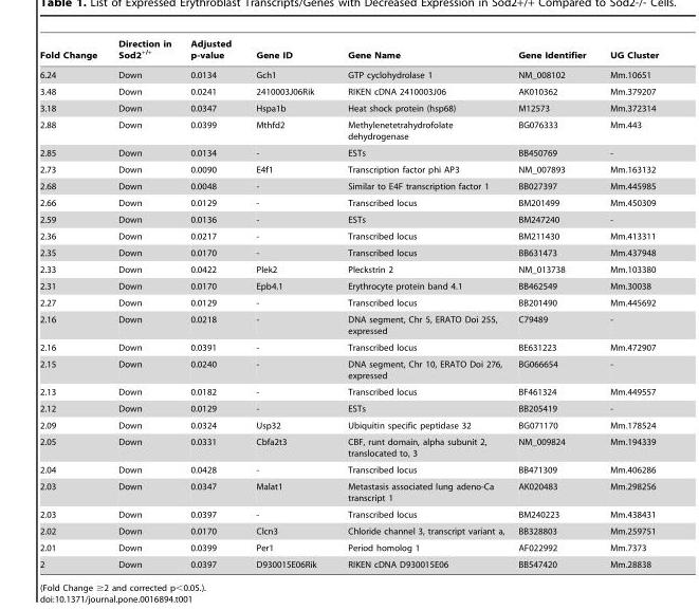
<table><thead><tr><td>Fold Change</td><td>Direction in Sod2<sup>+/+</sup></td><td>Adjusted p-value</td><td>Gene ID</td><td>Gene Name</td><td>Gene Identifier</td><td>UG Cluster</td></tr></thead><tbody><tr><td>6.24</td><td>Down</td><td>0.0134</td><td>Gch1</td><td>GTP cyclohydrolase 1</td><td>NM_008102</td><td>Mm.10651</td></tr><tr><td>3.48</td><td>Down</td><td>0.0241</td><td>2410003J06Rik</td><td>RIKEN cDNA 2410003J06</td><td>AK010362</td><td>Mm.379207</td></tr><tr><td>3.18</td><td>Down</td><td>0.0347</td><td>Hspa1b</td><td>Heat shock protein (hsp68)</td><td>M12573</td><td>Mm.372314</td></tr><tr><td>2.88</td><td>Down</td><td>0.0399</td><td>Mthfd2</td><td>Methylenetetrahydrofolate dehydrogenase</td><td>BG076333</td><td>Mm.443</td></tr><tr><td>2.85</td><td>Down</td><td>0.0134</td><td>-</td><td>ESTs</td><td>BB450769</td><td>-</td></tr><tr><td>2.73</td><td>Down</td><td>0.0090</td><td>E4f1</td><td>Transcription factor phi AP3</td><td>NM_007893</td><td>Mm.163132</td></tr><tr><td>2.68</td><td>Down</td><td>0.0048</td><td>-</td><td>Similar to E4F transcription factor 1</td><td>BB027397</td><td>Mm.445985</td></tr><tr><td>2.66</td><td>Down</td><td>0.0129</td><td>-</td><td>Transcribed locus</td><td>BM201499</td><td>Mm.450309</td></tr><tr><td>2.59</td><td>Down</td><td>0.0136</td><td>-</td><td>ESTs</td><td>BM247240</td><td>-</td></tr><tr><td>2.36</td><td>Down</td><td>0.0217</td><td>-</td><td>Transcribed locus</td><td>BM211430</td><td>Mm.413311</td></tr><tr><td>2.35</td><td>Down</td><td>0.0170</td><td>-</td><td>Transcribed locus</td><td>BB631473</td><td>Mm.437948</td></tr><tr><td>2.33</td><td>Down</td><td>0.0422</td><td>Plek2</td><td>Pleckstrin 2</td><td>NM_013738</td><td>Mm.103380</td></tr><tr><td>2.31</td><td>Down</td><td>0.0170</td><td>Epb4.1</td><td>Erythrocyte protein band 4.1</td><td>BB462549</td><td>Mm.30038</td></tr><tr><td>2.27</td><td>Down</td><td>0.0129</td><td>-</td><td>Transcribed locus</td><td>BB201490</td><td>Mm.445692</td></tr><tr><td>2.16</td><td>Down</td><td>0.0218</td><td>-</td><td>DNA segment, Chr 5, ERATO Doi 255, expressed</td><td>C79489</td><td>-</td></tr><tr><td>2.16</td><td>Down</td><td>0.0391</td><td>-</td><td>Transcribed locus</td><td>BE631223</td><td>Mm.472907</td></tr><tr><td>2.15</td><td>Down</td><td>0.0240</td><td>-</td><td>DNA segment, Chr 10, ERATO Doi 276, expressed</td><td>BG066654</td><td>-</td></tr><tr><td>2.13</td><td>Down</td><td>0.0182</td><td>-</td><td>Transcribed locus</td><td>BF461324</td><td>Mm.449557</td></tr><tr><td>2.12</td><td>Down</td><td>0.0129</td><td>-</td><td>ESTs</td><td>BB205419</td><td>-</td></tr><tr><td>2.09</td><td>Down</td><td>0.0324</td><td>Usp32</td><td>Ubiquitin specific peptidase 32</td><td>BG071170</td><td>Mm.178524</td></tr><tr><td>2.05</td><td>Down</td><td>0.0331</td><td>Cbfa2t3</td><td>CBF, runt domain, alpha subunit 2, translocated to, 3</td><td>NM_009824</td><td>Mm.194339</td></tr><tr><td>2.04</td><td>Down</td><td>0.0428</td><td>-</td><td>Transcribed locus</td><td>BB471309</td><td>Mm.406286</td></tr><tr><td>2.03</td><td>Down</td><td>0.0347</td><td>Malat1</td><td>Metastasis associated lung adeno-Ca transcript 1</td><td>AK020483</td><td>Mm.298256</td></tr><tr><td>2.03</td><td>Down</td><td>0.0397</td><td>-</td><td>Transcribed locus</td><td>BM240223</td><td>Mm.438431</td></tr><tr><td>2.02</td><td>Down</td><td>0.0170</td><td>Clcn3</td><td>Chloride channel 3, transcript variant a,</td><td>BB328803</td><td>Mm.259751</td></tr><tr><td>2.01</td><td>Down</td><td>0.0399</td><td>Per1</td><td>Period homolog 1</td><td>AF022992</td><td>Mm.7373</td></tr><tr><td>2</td><td>Down</td><td>0.0397</td><td>D930015E06Rik</td><td>RIKEN cDNA D930015E06</td><td>BB547420</td><td>Mm.28838</td></tr></tbody></table>